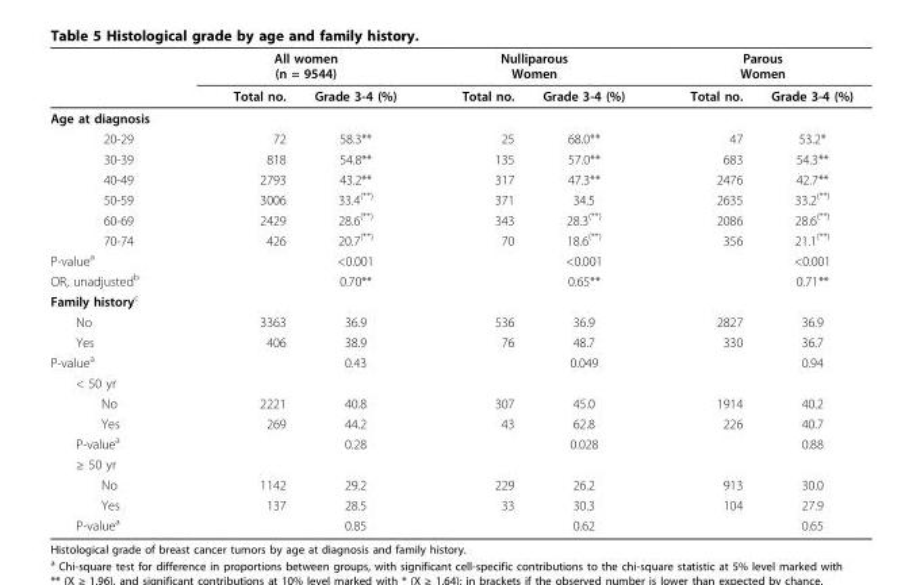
<table><thead><tr><td rowspan="2"></td><td colspan="2">All women (n = 9544)</td><td colspan="2">Nulliparous Women</td><td colspan="2">Parous Women</td></tr><tr><td>Total no.</td><td>Grade 3-4 (%)</td><td>Total no.</td><td>Grade 3-4 (%)</td><td>Total no.</td><td>Grade 3-4 (%)</td></tr></thead><tbody><tr><td colspan="7">Age at diagnosis</td></tr><tr><td>20-29</td><td>72</td><td>58.3**</td><td>25</td><td>68.0**</td><td>47</td><td>53.2*</td></tr><tr><td>30-39</td><td>818</td><td>54.8**</td><td>135</td><td>57.0**</td><td>683</td><td>54.3**</td></tr><tr><td>40-49</td><td>2793</td><td>43.2**</td><td>317</td><td>47.3**</td><td>2476</td><td>42.7**</td></tr><tr><td>50-59</td><td>3006</td><td>33.4<sup>(**)</sup></td><td>371</td><td>34.5</td><td>2635</td><td>33.2<sup>(**)</sup></td></tr><tr><td>60-69</td><td>2429</td><td>28.6<sup>(**)</sup></td><td>343</td><td>28.3<sup>(**)</sup></td><td>2086</td><td>28.6<sup>(**)</sup></td></tr><tr><td>70-74</td><td>426</td><td>20.7<sup>(**)</sup></td><td>70</td><td>18.6<sup>(**)</sup></td><td>356</td><td>21.1<sup>(**)</sup></td></tr><tr><td>P-value<sup>a</sup></td><td></td><td>&lt;0.001</td><td></td><td>&lt;0.001</td><td></td><td>&lt;0.001</td></tr><tr><td>OR, unadjusted<sup>b</sup></td><td></td><td>0.70**</td><td></td><td>0.65**</td><td></td><td>0.71**</td></tr><tr><td colspan="7">Family history<sup>c</sup></td></tr><tr><td>No</td><td>3363</td><td>36.9</td><td>536</td><td>36.9</td><td>2827</td><td>36.9</td></tr><tr><td>Yes</td><td>406</td><td>38.9</td><td>76</td><td>48.7</td><td>330</td><td>36.7</td></tr><tr><td>P-value<sup>a</sup></td><td></td><td>0.43</td><td></td><td>0.049</td><td></td><td>0.94</td></tr><tr><td colspan="7">&lt; 50 yr</td></tr><tr><td>No</td><td>2221</td><td>40.8</td><td>307</td><td>45.0</td><td>1914</td><td>40.2</td></tr><tr><td>Yes</td><td>269</td><td>44.2</td><td>43</td><td>62.8</td><td>226</td><td>40.7</td></tr><tr><td>P-value<sup>a</sup></td><td></td><td>0.28</td><td></td><td>0.028</td><td></td><td>0.88</td></tr><tr><td colspan="7">≥ 50 yr</td></tr><tr><td>No</td><td>1142</td><td>29.2</td><td>229</td><td>26.2</td><td>913</td><td>30.0</td></tr><tr><td>Yes</td><td>137</td><td>28.5</td><td>33</td><td>30.3</td><td>104</td><td>27.9</td></tr><tr><td>P-value<sup>a</sup></td><td></td><td>0.85</td><td></td><td>0.62</td><td></td><td>0.65</td></tr></tbody></table>